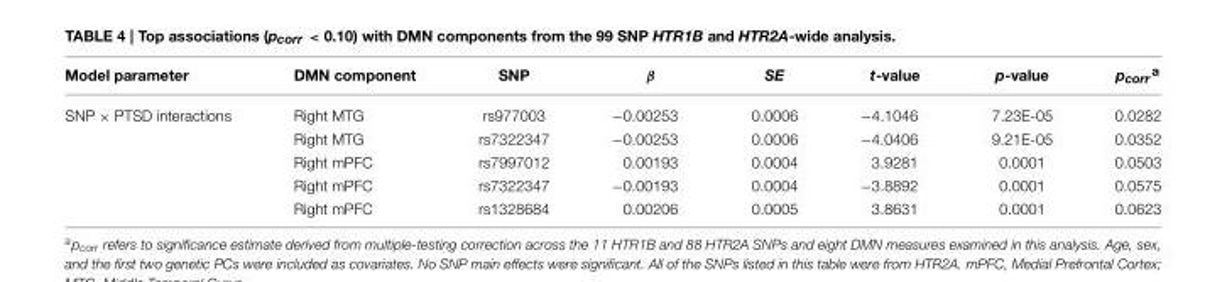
<table><thead><tr><td>Model parameter</td><td>DMN component</td><td>SNP</td><td>β</td><td>SE</td><td>t-value</td><td>p-value</td><td>pcorra</td></tr></thead><tbody><tr><td rowspan="5">SNP × PTSD interactions</td><td>Right MTG</td><td>rs977003</td><td>−0.00253</td><td>0.0006</td><td>−4.1046</td><td>7.23E-05</td><td>0.0282</td></tr><tr><td>Right MTG</td><td>rs7322347</td><td>−0.00253</td><td>0.0006</td><td>−4.0406</td><td>9.21E-05</td><td>0.0352</td></tr><tr><td>Right mPFC</td><td>rs7997012</td><td>0.00193</td><td>0.0004</td><td>3.9281</td><td>0.0001</td><td>0.0503</td></tr><tr><td>Right mPFC</td><td>rs7322347</td><td>−0.00193</td><td>0.0004</td><td>−3.8892</td><td>0.0001</td><td>0.0575</td></tr><tr><td>Right mPFC</td><td>rs1328684</td><td>0.00206</td><td>0.0005</td><td>3.8631</td><td>0.0001</td><td>0.0623</td></tr></tbody></table>